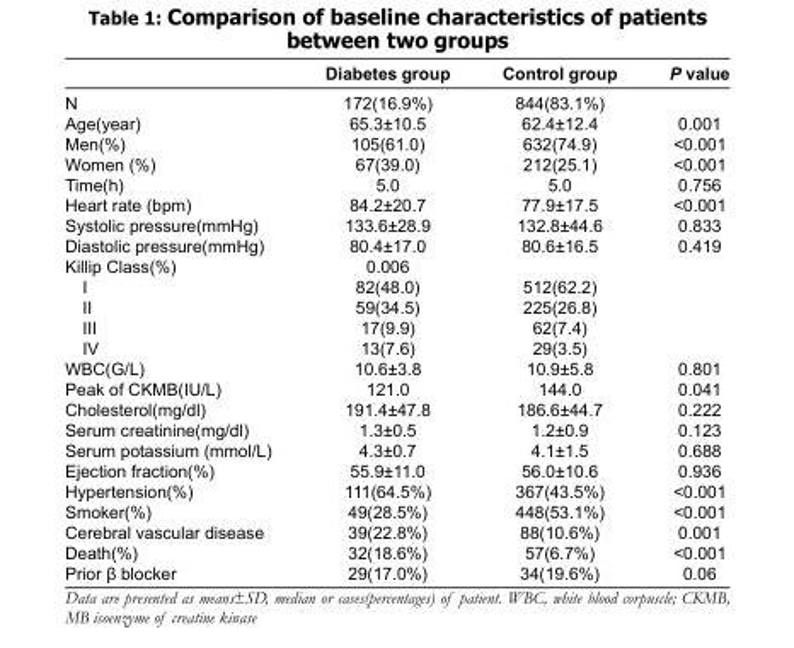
<table><thead><tr><td></td><td>Diabetes group</td><td>Control group</td><td>P value</td></tr></thead><tbody><tr><td>N</td><td>172(16.9%)</td><td>844(83.1%)</td><td></td></tr><tr><td>Age(year)</td><td>65.3±10.5</td><td>62.4±12.4</td><td>0.001</td></tr><tr><td>Men(%)</td><td>105(61.0)</td><td>632(74.9)</td><td>&lt;0.001</td></tr><tr><td>Women (%)</td><td>67(39.0)</td><td>212(25.1)</td><td>&lt;0.001</td></tr><tr><td>Time(h)</td><td>5.0</td><td>5.0</td><td>0.756</td></tr><tr><td>Heart rate (bpm)</td><td>84.2±20.7</td><td>77.9±17.5</td><td>&lt;0.001</td></tr><tr><td>Systolic pressure(mmHg)</td><td>133.6±28.9</td><td>132.8±44.6</td><td>0.833</td></tr><tr><td>Diastolic pressure(mmHg)</td><td>80.4±17.0</td><td>80.6±16.5</td><td>0.419</td></tr><tr><td>Killip Class(%)</td><td>0.006</td><td></td><td></td></tr><tr><td>I</td><td>82(48.0)</td><td>512(62.2)</td><td></td></tr><tr><td>II</td><td>59(34.5)</td><td>225(26.8)</td><td></td></tr><tr><td>III</td><td>17(9.9)</td><td>62(7.4)</td><td></td></tr><tr><td>IV</td><td>13(7.6)</td><td>29(3.5)</td><td></td></tr><tr><td>WBC(G/L)</td><td>10.6±3.8</td><td>10.9±5.8</td><td>0.801</td></tr><tr><td>Peak of CKMB(IU/L)</td><td>121.0</td><td>144.0</td><td>0.041</td></tr><tr><td>Cholesterol(mg/dl)</td><td>191.4±47.8</td><td>186.6±44.7</td><td>0.222</td></tr><tr><td>Serum creatinine(mg/dl)</td><td>1.3±0.5</td><td>1.2±0.9</td><td>0.123</td></tr><tr><td>Serum potassium (mmol/L)</td><td>4.3±0.7</td><td>4.1±1.5</td><td>0.688</td></tr><tr><td>Ejection fraction(%)</td><td>55.9±11.0</td><td>56.0±10.6</td><td>0.936</td></tr><tr><td>Hypertension(%)</td><td>111(64.5%)</td><td>367(43.5%)</td><td>&lt;0.001</td></tr><tr><td>Smoker(%)</td><td>49(28.5%)</td><td>448(53.1%)</td><td>&lt;0.001</td></tr><tr><td>Cerebral vascular disease</td><td>39(22.8%)</td><td>88(10.6%)</td><td>0.001</td></tr><tr><td>Death(%)</td><td>32(18.6%)</td><td>57(6.7%)</td><td>&lt;0.001</td></tr><tr><td>Prior β blocker</td><td>29(17.0%)</td><td>34(19.6%)</td><td>0.06</td></tr></tbody></table>